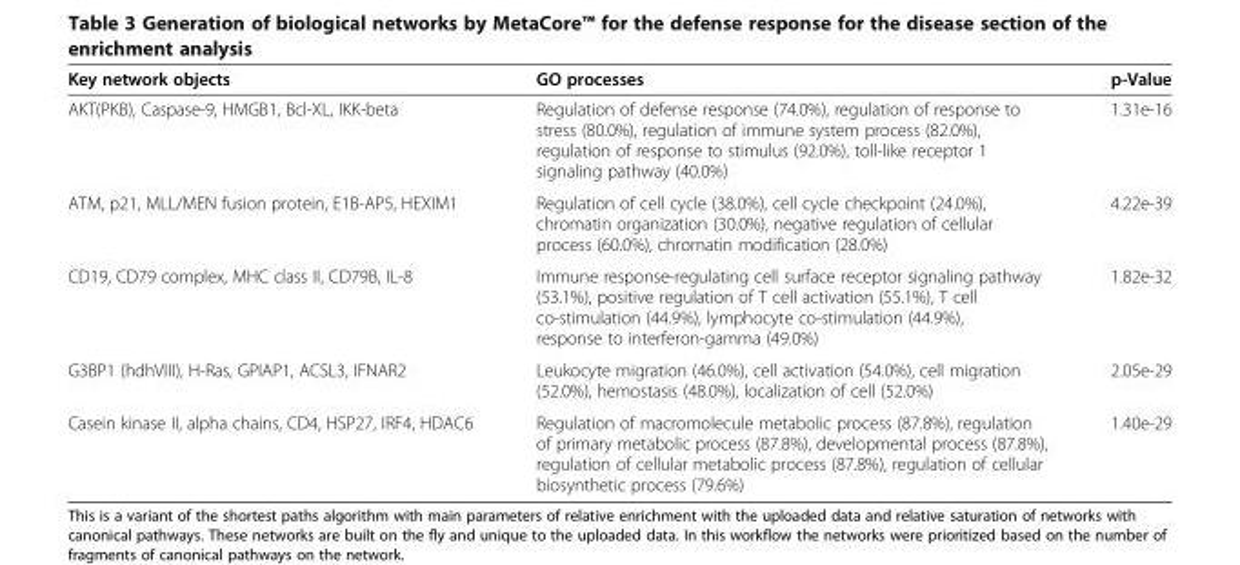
<table><thead><tr><td>Key network objects</td><td>GO processes</td><td>p-Value</td></tr></thead><tbody><tr><td>AKT(PKB), Caspase-9, HMGB1, Bcl-XL, IKK-beta</td><td>Regulation of defense response (74.0%), regulation of response to stress (80.0%), regulation of immune system process (82.0%), regulation of response to stimulus (92.0%), toll-like receptor 1 signaling pathway (40.0%)</td><td>1.31e-16</td></tr><tr><td>ATM, p21, MLL/MEN fusion protein, E1B-AP5, HEXIM1</td><td>Regulation of cell cycle (38.0%), cell cycle checkpoint (24.0%), chromatin organization (30.0%), negative regulation of cellular process (60.0%), chromatin modification (28.0%)</td><td>4.22e-39</td></tr><tr><td>CD19, CD79 complex, MHC class II, CD79B, IL-8</td><td>Immune response-regulating cell surface receptor signaling pathway (53.1%), positive regulation of T cell activation (55.1%), T cell co-stimulation (44.9%), lymphocyte co-stimulation (44.9%), response to interferon-gamma (49.0%)</td><td>1.82e-32</td></tr><tr><td>G3BP1 (hdhVIII), H-Ras, GPIAP1, ACSL3, IFNAR2</td><td>Leukocyte migration (46.0%), cell activation (54.0%), cell migration (52.0%), hemostasis (48.0%), localization of cell (52.0%)</td><td>2.05e-29</td></tr><tr><td>Casein kinase II, alpha chains, CD4, HSP27, IRF4, HDAC6</td><td>Regulation of macromolecule metabolic process (87.8%), regulation of primary metabolic process (87.8%), developmental process (87.8%), regulation of cellular metabolic process (87.8%), regulation of cellular biosynthetic process (79.6%)</td><td>1.40e-29</td></tr></tbody></table>